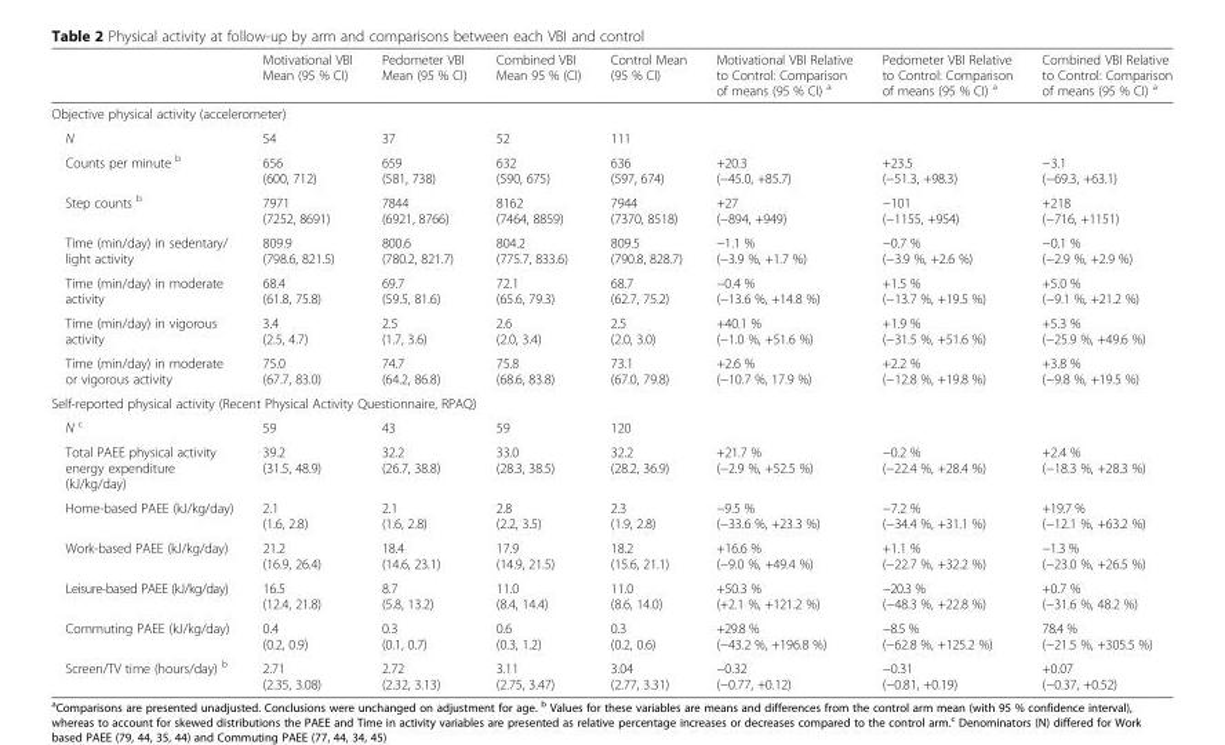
<table><thead><tr><td></td><td>Motivational VBI Mean (95 % CI)</td><td>Pedometer VBI Mean (95 % CI)</td><td>Combined VBI Mean 95 % (CI)</td><td>Control Mean (95 % CI)</td><td>Motivational VBI Relative to Control: Comparison of means (95 % CI) <sup>a</sup></td><td>Pedometer VBI Relative to Control: Comparison of means (95 % CI) <sup>a</sup></td><td>Combined VBI Relative to Control: Comparison of means (95 % CI) <sup>a</sup></td></tr></thead><tbody><tr><td colspan="8">Objective physical activity (accelerometer)</td></tr><tr><td>N</td><td>54</td><td>37</td><td>52</td><td>111</td><td></td><td></td><td></td></tr><tr><td>Counts per minute <sup>b</sup></td><td>656 (600, 712)</td><td>659 (581, 738)</td><td>632 (590, 675)</td><td>636 (597, 674)</td><td>+20.3 (−45.0, +85.7)</td><td>+23.5 (−51.3, +98.3)</td><td>−3.1 (−69.3, +63.1)</td></tr><tr><td>Step counts <sup>b</sup></td><td>7971 (7252, 8691)</td><td>7844 (6921, 8766)</td><td>8162 (7464, 8859)</td><td>7944 (7370, 8518)</td><td>+27 (−894, +949)</td><td>−101 (−1155, +954)</td><td>+218 (−716, +1151)</td></tr><tr><td>Time (min/day) in sedentary/ light activity</td><td>809.9 (798.6, 821.5)</td><td>800.6 (780.2, 821.7)</td><td>804.2 (775.7, 833.6)</td><td>809.5 (790.8, 828.7)</td><td>−1.1 % (−3.9 %, +1.7 %)</td><td>−0.7 % (−3.9 %, +2.6 %)</td><td>−0.1 % (−2.9 %, +2.9 %)</td></tr><tr><td>Time (min/day) in moderate activity</td><td>68.4 (61.8, 75.8)</td><td>69.7 (59.5, 81.6)</td><td>72.1 (65.6, 79.3)</td><td>68.7 (62.7, 75.2)</td><td>−0.4 % (−13.6 %, +14.8 %)</td><td>+1.5 % (−13.7 %, +19.5 %)</td><td>+5.0 % (−9.1 %, +21.2 %)</td></tr><tr><td>Time (min/day) in vigorous activity</td><td>3.4 (2.5, 4.7)</td><td>2.5 (1.7, 3.6)</td><td>2.6 (2.0, 3.4)</td><td>2.5 (2.0, 3.0)</td><td>+40.1 % (−1.0 %, +51.6 %)</td><td>+1.9 % (−31.5 %, +51.6 %)</td><td>+5.3 % (−25.9 %, +49.6 %)</td></tr><tr><td>Time (min/day) in moderate or vigorous activity</td><td>75.0 (67.7, 83.0)</td><td>74.7 (64.2, 86.8)</td><td>75.8 (68.6, 83.8)</td><td>73.1 (67.0, 79.8)</td><td>+2.6 % (−10.7 %, 17.9 %)</td><td>+2.2 % (−12.8 %, +19.8 %)</td><td>+3.8 % (−9.8 %, +19.5 %)</td></tr><tr><td colspan="8">Self-reported physical activity (Recent Physical Activity Questionnaire, RPAQ)</td></tr><tr><td>N <sup>c</sup></td><td>59</td><td>43</td><td>59</td><td>120</td><td></td><td></td><td></td></tr><tr><td>Total PAEE physical activity energy expenditure (kJ/kg/day)</td><td>39.2 (31.5, 48.9)</td><td>32.2 (26.7, 38.8)</td><td>33.0 (28.3, 38.5)</td><td>32.2 (28.2, 36.9)</td><td>+21.7 % (−2.9 %, +52.5 %)</td><td>−0.2 % (−22.4 %, +28.4 %)</td><td>+2.4 % (−18.3 %, +28.3 %)</td></tr><tr><td>Home-based PAEE (kJ/kg/day)</td><td>2.1 (1.6, 2.8)</td><td>2.1 (1.6, 2.8)</td><td>2.8 (2.2, 3.5)</td><td>2.3 (1.9, 2.8)</td><td>−9.5 % (−33.6 %, +23.3 %)</td><td>−7.2 % (−34.4 %, +31.1 %)</td><td>+19.7 % (−12.1 %, +63.2 %)</td></tr><tr><td>Work-based PAEE (kJ/kg/day)</td><td>21.2 (16.9, 26.4)</td><td>18.4 (14.6, 23.1)</td><td>17.9 (14.9, 21.5)</td><td>18.2 (15.6, 21.1)</td><td>+16.6 % (−9.0 %, +49.4 %)</td><td>+1.1 % (−22.7 %, +32.2 %)</td><td>−1.3 % (−23.0 %, +26.5 %)</td></tr><tr><td>Leisure-based PAEE (kJ/kg/day)</td><td>16.5 (12.4, 21.8)</td><td>8.7 (5.8, 13.2)</td><td>11.0 (8.4, 14.4)</td><td>11.0 (8.6, 14.0)</td><td>+50.3 % (+2.1 %, +121.2 %)</td><td>−20.3 % (−48.3 %, +22.8 %)</td><td>+0.7 % (−31.6 %, 48.2 %)</td></tr><tr><td>Commuting PAEE (kJ/kg/day)</td><td>0.4 (0.2, 0.9)</td><td>0.3 (0.1, 0.7)</td><td>0.6 (0.3, 1.2)</td><td>0.3 (0.2, 0.6)</td><td>+29.8 % (−43.2 %, +196.8 %)</td><td>−8.5 % (−62.8 %, +125.2 %)</td><td>78.4 % (−21.5 %, +305.5 %)</td></tr><tr><td>Screen/TV time (hours/day) <sup>b</sup></td><td>2.71 (2.35, 3.08)</td><td>2.72 (2.32, 3.13)</td><td>3.11 (2.75, 3.47)</td><td>3.04 (2.77, 3.31)</td><td>−0.32 (−0.77, +0.12)</td><td>−0.31 (−0.81, +0.19)</td><td>+0.07 (−0.37, +0.52)</td></tr></tbody></table>